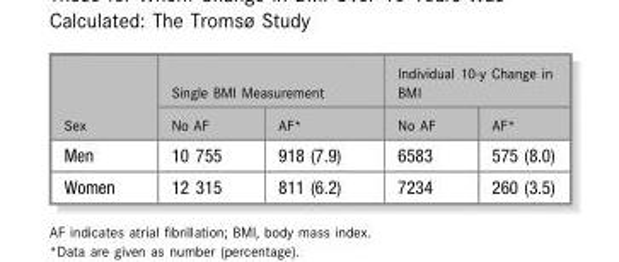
<table><thead><tr><td rowspan="2">Sex</td><td colspan="2">Single BMI Measurement</td><td colspan="2">Individual 10-y Change in BMI</td></tr><tr><td>No AF</td><td>AF*</td><td>No AF</td><td>AF*</td></tr></thead><tbody><tr><td>Men</td><td>10 755</td><td>918 (7.9)</td><td>6583</td><td>575 (8.0)</td></tr><tr><td>Women</td><td>12 315</td><td>811 (6.2)</td><td>7234</td><td>260 (3.5)</td></tr></tbody></table>